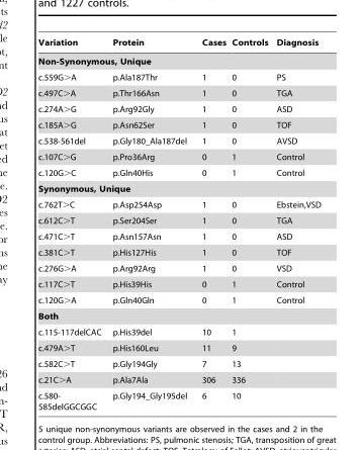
<table><thead><tr><td>Variation</td><td>Protein</td><td>Cases</td><td>Controls</td><td>Diagnosis</td></tr></thead><tbody><tr><td colspan="5">Non-Synonymous, Unique</td></tr><tr><td>c.559G&gt;A</td><td>p.Ala187Thr</td><td>1</td><td>0</td><td>PS</td></tr><tr><td>c.497C&gt;A</td><td>p.Thr166Asn</td><td>1</td><td>0</td><td>TGA</td></tr><tr><td>c.274A&gt;G</td><td>p.Arg92Gly</td><td>1</td><td>0</td><td>ASD</td></tr><tr><td>c.185A&gt;G</td><td>p.Asn62Ser</td><td>1</td><td>0</td><td>TOF</td></tr><tr><td>c.538-561del</td><td>p.Gly180_Ala187del</td><td>1</td><td>0</td><td>AVSD</td></tr><tr><td>c.107C&gt;G</td><td>p.Pro36Arg</td><td>0</td><td>1</td><td>Control</td></tr><tr><td>c.120G&gt;C</td><td>p.Gln40His</td><td>0</td><td>1</td><td>Control</td></tr><tr><td colspan="5">Synonymous, Unique</td></tr><tr><td>c.762T&gt;C</td><td>p.Asp254Asp</td><td>1</td><td>0</td><td>Ebstein,VSD</td></tr><tr><td>c.612C&gt;T</td><td>p.Ser204Ser</td><td>1</td><td>0</td><td>TGA</td></tr><tr><td>c.471C&gt;T</td><td>p.Asn157Asn</td><td>1</td><td>0</td><td>ASD</td></tr><tr><td>c.381C&gt;T</td><td>p.His127His</td><td>1</td><td>0</td><td>TOF</td></tr><tr><td>c.276G&gt;A</td><td>p.Arg92Arg</td><td>1</td><td>0</td><td>VSD</td></tr><tr><td>c.117C&gt;T</td><td>p.His39His</td><td>0</td><td>1</td><td>Control</td></tr><tr><td>c.120G&gt;A</td><td>p.Gln40Gln</td><td>0</td><td>1</td><td>Control</td></tr><tr><td colspan="5">Both</td></tr><tr><td>c.115-117delCAC</td><td>p.His39del</td><td>10</td><td>1</td><td></td></tr><tr><td>c.479A&gt;T</td><td>p.His160Leu</td><td>11</td><td>9</td><td></td></tr><tr><td>c.582C&gt;T</td><td>p.Gly194Gly</td><td>7</td><td>13</td><td></td></tr><tr><td>c.21C&gt;A</td><td>p.Ala7Ala</td><td>306</td><td>336</td><td></td></tr><tr><td>c.580- 585delGGCGGC</td><td>p.Gly194_Gly195del</td><td>6</td><td>10</td><td></td></tr></tbody></table>